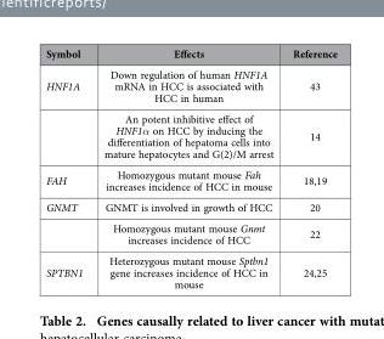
<table><thead><tr><td>Symbol</td><td>Effects</td><td>Reference</td></tr></thead><tbody><tr><td rowspan="2">HNF1A</td><td>Down regulation of human HNF1A mRNA in HCC is associated with HCC in human</td><td>43</td></tr><tr><td>An potent inhibitive effect of HNF1α on HCC by inducing the differentiation of hepatoma cells into mature hepatocytes and G(2)/M arrest</td><td>14</td></tr><tr><td>FAH</td><td>Homozygous mutant mouse Fah increases incidence of HCC in mouse</td><td>18,19</td></tr><tr><td rowspan="2">GNMT</td><td>GNMT is involved in growth of HCC</td><td>20</td></tr><tr><td>Homozygous mutant mouse Gnmt increases incidence of HCC</td><td>22</td></tr><tr><td>SPTBN1</td><td>Heterozygous mutant mouse Sptbn1 gene increases incidence of HCC in mouse</td><td>24,25</td></tr></tbody></table>